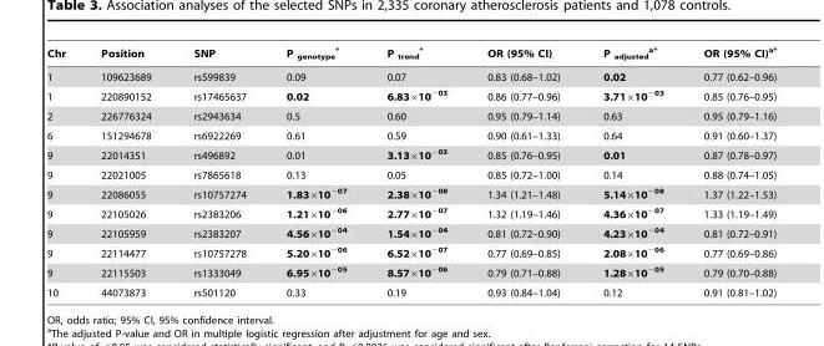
<table><thead><tr><td>Chr</td><td>Position</td><td>SNP</td><td>P <sub>genotype</sub> *</td><td>P <sub>trend</sub> *</td><td>OR (95% CI)</td><td>P <sub>adjusted</sub> <sup>a</sup>*</td><td>OR (95% CI)<sup>a</sup>*</td></tr></thead><tbody><tr><td>1</td><td>109623689</td><td>rs599839</td><td>0.09</td><td>0.07</td><td>0.83 (0.68–1.02)</td><td>0.02</td><td>0.77 (0.62–0.96)</td></tr><tr><td>1</td><td>220890152</td><td>rs17465637</td><td>0.02</td><td>6.83×10<sup>−03</sup></td><td>0.86 (0.77–0.96)</td><td>3.71×10<sup>−03</sup></td><td>0.85 (0.76–0.95)</td></tr><tr><td>2</td><td>226776324</td><td>rs2943634</td><td>0.5</td><td>0.60</td><td>0.95 (0.79–1.14)</td><td>0.63</td><td>0.95 (0.79–1.16)</td></tr><tr><td>6</td><td>151294678</td><td>rs6922269</td><td>0.61</td><td>0.59</td><td>0.90 (0.61–1.33)</td><td>0.64</td><td>0.91 (0.60–1.37)</td></tr><tr><td>9</td><td>22014351</td><td>rs496892</td><td>0.01</td><td>3.13×10<sup>−03</sup></td><td>0.85 (0.76–0.95)</td><td>0.01</td><td>0.87 (0.78–0.97)</td></tr><tr><td>9</td><td>22021005</td><td>rs7865618</td><td>0.13</td><td>0.05</td><td>0.85 (0.72–1.00)</td><td>0.14</td><td>0.88 (0.74–1.05)</td></tr><tr><td>9</td><td>22086055</td><td>rs10757274</td><td>1.83×10<sup>−07</sup></td><td>2.38×10<sup>−08</sup></td><td>1.34 (1.21–1.48)</td><td>5.14×10<sup>−08</sup></td><td>1.37 (1.22–1.53)</td></tr><tr><td>9</td><td>22105026</td><td>rs2383206</td><td>1.21×10<sup>−06</sup></td><td>2.77×10<sup>−07</sup></td><td>1.32 (1.19–1.46)</td><td>4.36×10<sup>−07</sup></td><td>1.33 (1.19–1.49)</td></tr><tr><td>9</td><td>22105959</td><td>rs2383207</td><td>4.56×10<sup>−04</sup></td><td>1.54×10<sup>−04</sup></td><td>0.81 (0.72–0.90)</td><td>4.23×10<sup>−04</sup></td><td>0.81 (0.72–0.91)</td></tr><tr><td>9</td><td>22114477</td><td>rs10757278</td><td>5.20×10<sup>−06</sup></td><td>6.52×10<sup>−07</sup></td><td>0.77 (0.69–0.85)</td><td>2.08×10<sup>−06</sup></td><td>0.77 (0.69–0.86)</td></tr><tr><td>9</td><td>22115503</td><td>rs1333049</td><td>6.95×10<sup>−05</sup></td><td>8.57×10<sup>−06</sup></td><td>0.79 (0.71–0.88)</td><td>1.28×10<sup>−05</sup></td><td>0.79 (0.70–0.88)</td></tr><tr><td>10</td><td>44073873</td><td>rs501120</td><td>0.33</td><td>0.19</td><td>0.93 (0.84–1.04)</td><td>0.12</td><td>0.91 (0.81–1.02)</td></tr></tbody></table>